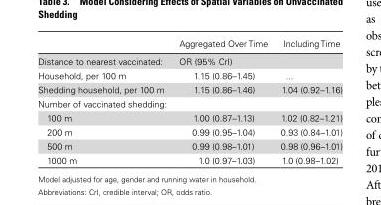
<table><thead><tr><td></td><td>Aggregated Over Time</td><td>Including Time</td></tr></thead><tbody><tr><td>Distance to nearest vaccinated:</td><td>OR (95% CrI)</td><td></td></tr><tr><td>Household, per 100 m</td><td>1.15 (0.86–1.45)</td><td>...</td></tr><tr><td>Shedding household, per 100 m</td><td>1.15 (0.86–1.46)</td><td>1.04 (0.92–1.16)</td></tr><tr><td colspan="3">Number of vaccinated shedding:</td></tr><tr><td>100 m</td><td>1.00 (0.87–1.13)</td><td>1.02 (0.82–1.21)</td></tr><tr><td>200 m</td><td>0.99 (0.95–1.04)</td><td>0.93 (0.84–1.01)</td></tr><tr><td>500 m</td><td>0.99 (0.98–1.01)</td><td>0.98 (0.96–1.01)</td></tr><tr><td>1000 m</td><td>1.0 (0.97–1.03)</td><td>1.0 (0.98–1.02)</td></tr></tbody></table>